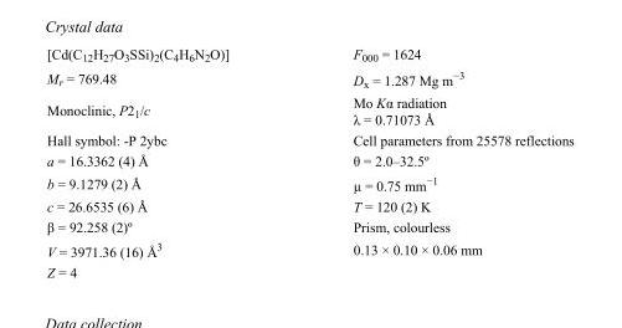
<table><tbody><tr><td>[Cd(C<sub>12</sub>H<sub>27</sub>O<sub>3</sub>SSi)<sub>2</sub>(C<sub>4</sub>H<sub>6</sub>N<sub>2</sub>O)]</td><td>F<sub>000</sub> = 1624</td></tr><tr><td>M<sub>r</sub> = 769.48</td><td>D<sub>x</sub> = 1.287 Mg m<sup>−3</sup></td></tr><tr><td>Monoclinic, P2<sub>1</sub>/c</td><td>Mo Kα radiation λ = 0.71073 Å</td></tr><tr><td>Hall symbol: -P 2ybc</td><td>Cell parameters from 25578 reflections</td></tr><tr><td>a = 16.3362 (4) Å</td><td>θ = 2.0–32.5º</td></tr><tr><td>b = 9.1279 (2) Å</td><td>µ = 0.75 mm<sup>−1</sup></td></tr><tr><td>c = 26.6535 (6) Å</td><td>T = 120 (2) K</td></tr><tr><td>β = 92.258 (2)º</td><td>Prism, colourless</td></tr><tr><td>V = 3971.36 (16) Å<sup>3</sup></td><td>0.13 × 0.10 × 0.06 mm</td></tr><tr><td>Z = 4</td><td></td></tr></tbody></table>